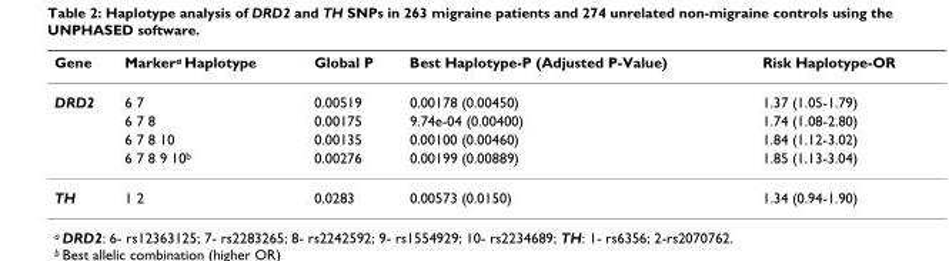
<table><thead><tr><td>Gene</td><td>Marker<sup>a</sup> Haplotype</td><td>Global P</td><td>Best Haplotype-P (Adjusted P-Value)</td><td>Risk Haplotype-OR</td></tr></thead><tbody><tr><td rowspan="4">DRD2</td><td>6 7</td><td>0.00519</td><td>0.00178 (0.00450)</td><td>1.37 (1.05-1.79)</td></tr><tr><td>6 7 8</td><td>0.00175</td><td>9.74e-04 (0.00400)</td><td>1.74 (1.08-2.80)</td></tr><tr><td>6 7 8 10</td><td>0.00135</td><td>0.00100 (0.00460)</td><td>1.84 (1.12-3.02)</td></tr><tr><td>6 7 8 9 10<sup>b</sup></td><td>0.00276</td><td>0.00199 (0.00889)</td><td>1.85 (1.13-3.04)</td></tr><tr><td>TH</td><td>1 2</td><td>0.0283</td><td>0.00573 (0.0150)</td><td>1.34 (0.94-1.90)</td></tr></tbody></table>